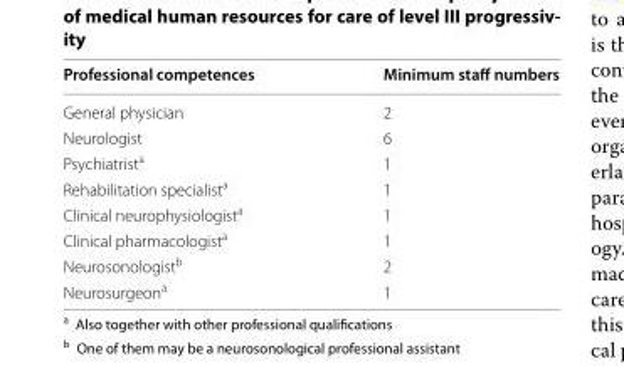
<table><thead><tr><td>Professional competences</td><td>Minimum staff numbers</td></tr></thead><tbody><tr><td>General physician</td><td>2</td></tr><tr><td>Neurologist</td><td>6</td></tr><tr><td>Psychiatrist<sup>a</sup></td><td>1</td></tr><tr><td>Rehabilitation specialist<sup>a</sup></td><td>1</td></tr><tr><td>Clinical neurophysiologist<sup>a</sup></td><td>1</td></tr><tr><td>Clinical pharmacologist<sup>a</sup></td><td>1</td></tr><tr><td>Neurosonologist<sup>b</sup></td><td>2</td></tr><tr><td>Neurosurgeon<sup>a</sup></td><td>1</td></tr></tbody></table>